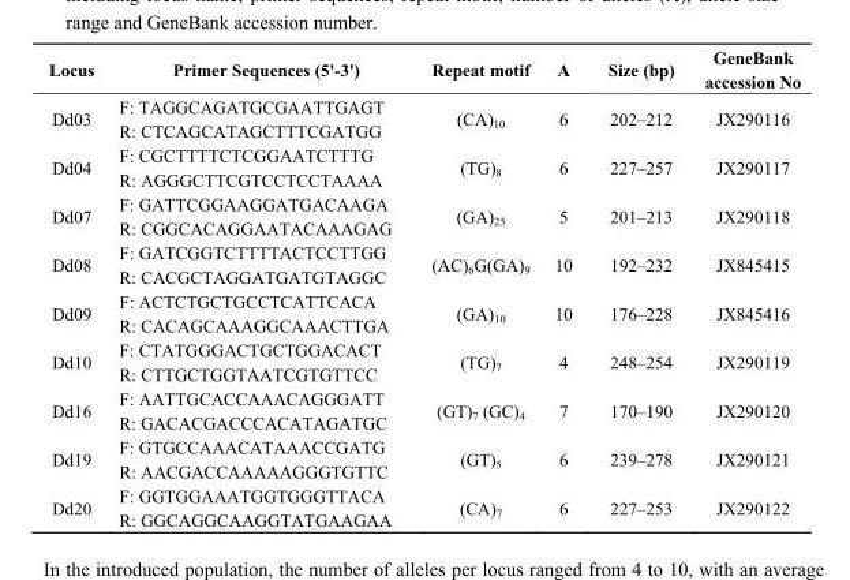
<table><thead><tr><td>Locus</td><td>Primer Sequences (5&#x27;-3&#x27;)</td><td>Repeat motif</td><td>A</td><td>Size (bp)</td><td>GeneBank accession No</td></tr></thead><tbody><tr><td>Dd03</td><td>F: TAGGCAGATGCGAATTGAGT R: CTCAGCATAGCTTTCGATGG</td><td>(CA)<sub>10</sub></td><td>6</td><td>202–212</td><td>JX290116</td></tr><tr><td>Dd04</td><td>F: CGCTTTTCTCGGAATCTTTG R: AGGGCTTCGTCCTCCTAAAA</td><td>(TG)<sub>8</sub></td><td>6</td><td>227–257</td><td>JX290117</td></tr><tr><td>Dd07</td><td>F: GATTCGGAAGGATGACAAGA R: CGGCACAGGAATACAAAGAG</td><td>(GA)<sub>25</sub></td><td>5</td><td>201–213</td><td>JX290118</td></tr><tr><td>Dd08</td><td>F: GATCGGTCTTTTACTCCTTGG R: CACGCTAGGATGATGTAGGC</td><td>(AC)<sub>6</sub>G(GA)<sub>9</sub></td><td>10</td><td>192–232</td><td>JX845415</td></tr><tr><td>Dd09</td><td>F: ACTCTGCTGCCTCATTCACA R: CACAGCAAAGGCAAACTTGA</td><td>(GA)<sub>10</sub></td><td>10</td><td>176–228</td><td>JX845416</td></tr><tr><td>Dd10</td><td>F: CTATGGGACTGCTGGACACT R: CTTGCTGGTAATCGTGTTCC</td><td>(TG)<sub>7</sub></td><td>4</td><td>248–254</td><td>JX290119</td></tr><tr><td>Dd16</td><td>F: AATTGCACCAAACAGGGATT R: GACACGACCCACATAGATGC</td><td>(GT)<sub>7</sub> (GC)<sub>4</sub></td><td>7</td><td>170–190</td><td>JX290120</td></tr><tr><td>Dd19</td><td>F: GTGCCAAACATAAACCGATG R: AACGACCAAAAAGGGTGTTC</td><td>(GT)<sub>5</sub></td><td>6</td><td>239–278</td><td>JX290121</td></tr><tr><td>Dd20</td><td>F: GGTGGAAATGGTGGGTTACA R: GGCAGGCAAGGTATGAAGAA</td><td>(CA)<sub>7</sub></td><td>6</td><td>227–253</td><td>JX290122</td></tr></tbody></table>